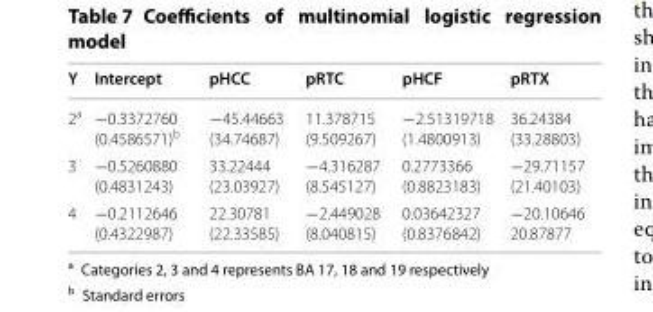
<table><thead><tr><td>Y</td><td>Intercept</td><td>pHCC</td><td>pRTC</td><td>pHCF</td><td>pRTX</td></tr></thead><tbody><tr><td>2<sup>a</sup></td><td>−0.3372760 (0.4586571)<sup>b</sup></td><td>−45.44663 (34.74687)</td><td>11.378715 (9.509267)</td><td>−2.51319718 (1.4800913)</td><td>36.24384 (33.28803)</td></tr><tr><td>3</td><td>−0.5260880 (0.4831243)</td><td>33.22444 (23.03927)</td><td>−4.316287 (8.545127)</td><td>0.2773366 (0.8823183)</td><td>−29.71157 (21.40103)</td></tr><tr><td>4</td><td>−0.2112646 (0.4322987)</td><td>22.30781 (22.33585)</td><td>−2.449028 (8.040815)</td><td>0.03642327 (0.8376842)</td><td>−20.10646 20.87877</td></tr></tbody></table>